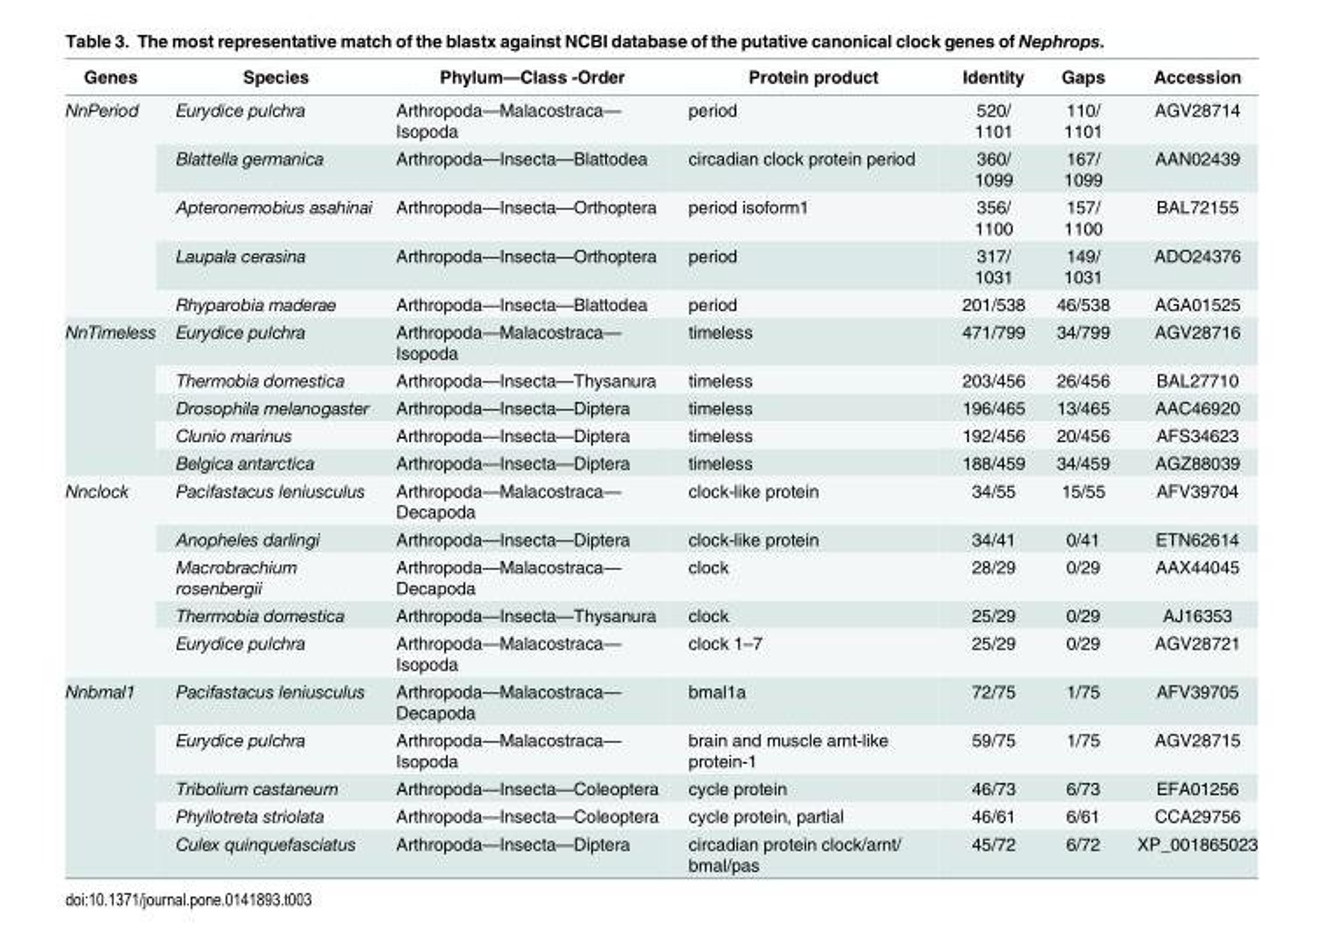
<table><thead><tr><td>Genes</td><td>Species</td><td>Phylum—Class -Order</td><td>Protein product</td><td>Identity</td><td>Gaps</td><td>Accession</td></tr></thead><tbody><tr><td rowspan="5">NnPeriod</td><td>Eurydice pulchra</td><td>Arthropoda—Malacostraca— Isopoda</td><td>period</td><td>520/ 1101</td><td>110/ 1101</td><td>AGV28714</td></tr><tr><td>Blattella germanica</td><td>Arthropoda—Insecta—Blattodea</td><td>circadian clock protein period</td><td>360/ 1099</td><td>167/ 1099</td><td>AAN02439</td></tr><tr><td>Apteronemobius asahinai</td><td>Arthropoda—Insecta—Orthoptera</td><td>period isoform1</td><td>356/ 1100</td><td>157/ 1100</td><td>BAL72155</td></tr><tr><td>Laupala cerasina</td><td>Arthropoda—Insecta—Orthoptera</td><td>period</td><td>317/ 1031</td><td>149/ 1031</td><td>ADO24376</td></tr><tr><td>Rhyparobia maderae</td><td>Arthropoda—Insecta—Blattodea</td><td>period</td><td>201/538</td><td>46/538</td><td>AGA01525</td></tr><tr><td rowspan="5">NnTimeless</td><td>Eurydice pulchra</td><td>Arthropoda—Malacostraca— Isopoda</td><td>timeless</td><td>471/799</td><td>34/799</td><td>AGV28716</td></tr><tr><td>Thermobia domestica</td><td>Arthropoda—Insecta—Thysanura</td><td>timeless</td><td>203/456</td><td>26/456</td><td>BAL27710</td></tr><tr><td>Drosophila melanogaster</td><td>Arthropoda—Insecta—Diptera</td><td>timeless</td><td>196/465</td><td>13/465</td><td>AAC46920</td></tr><tr><td>Clunio marinus</td><td>Arthropoda—Insecta—Diptera</td><td>timeless</td><td>192/456</td><td>20/456</td><td>AFS34623</td></tr><tr><td>Belgica antarctica</td><td>Arthropoda—Insecta—Diptera</td><td>timeless</td><td>188/459</td><td>34/459</td><td>AGZ88039</td></tr><tr><td rowspan="5">Nnclock</td><td>Pacifastacus leniusculus</td><td>Arthropoda—Malacostraca— Decapoda</td><td>clock-like protein</td><td>34/55</td><td>15/55</td><td>AFV39704</td></tr><tr><td>Anopheles darlingi</td><td>Arthropoda—Insecta—Diptera</td><td>clock-like protein</td><td>34/41</td><td>0/41</td><td>ETN62614</td></tr><tr><td>Macrobrachium rosenbergii</td><td>Arthropoda—Malacostraca— Decapoda</td><td>clock</td><td>28/29</td><td>0/29</td><td>AAX44045</td></tr><tr><td>Thermobia domestica</td><td>Arthropoda—Insecta—Thysanura</td><td>clock</td><td>25/29</td><td>0/29</td><td>AJ16353</td></tr><tr><td>Eurydice pulchra</td><td>Arthropoda—Malacostraca— Isopoda</td><td>clock 1–7</td><td>25/29</td><td>0/29</td><td>AGV28721</td></tr><tr><td rowspan="5">Nnbmal1</td><td>Pacifastacus leniusculus</td><td>Arthropoda—Malacostraca— Decapoda</td><td>bmal1a</td><td>72/75</td><td>1/75</td><td>AFV39705</td></tr><tr><td>Eurydice pulchra</td><td>Arthropoda—Malacostraca— Isopoda</td><td>brain and muscle arnt-like protein-1</td><td>59/75</td><td>1/75</td><td>AGV28715</td></tr><tr><td>Tribolium castaneum</td><td>Arthropoda—Insecta—Coleoptera</td><td>cycle protein</td><td>46/73</td><td>6/73</td><td>EFA01256</td></tr><tr><td>Phyllotreta striolata</td><td>Arthropoda—Insecta—Coleoptera</td><td>cycle protein, partial</td><td>46/61</td><td>6/61</td><td>CCA29756</td></tr><tr><td>Culex quinquefasciatus</td><td>Arthropoda—Insecta—Diptera</td><td>circadian protein clock/arnt/ bmal/pas</td><td>45/72</td><td>6/72</td><td>XP_001865023</td></tr></tbody></table>